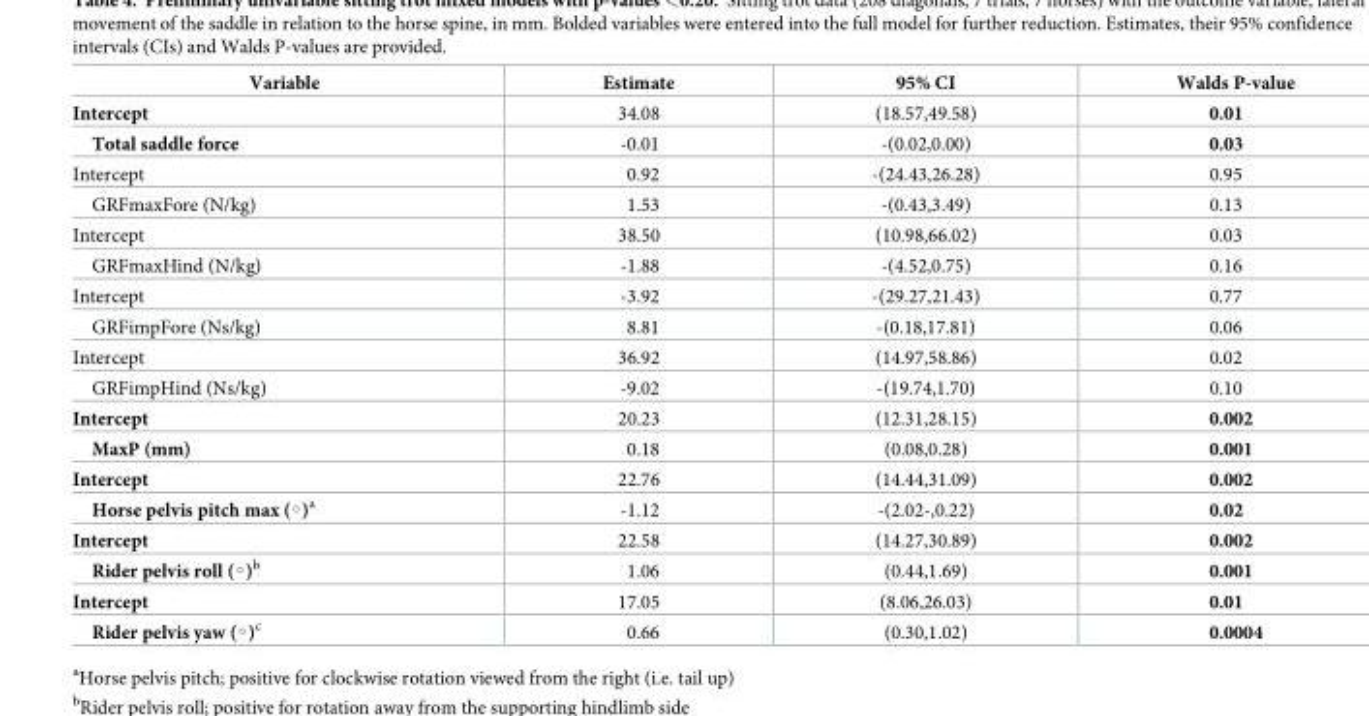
<table><thead><tr><td>Variable</td><td>Estimate</td><td>95% CI</td><td>Walds P-value</td></tr></thead><tbody><tr><td>Intercept</td><td>34.08</td><td>(18.57,49.58)</td><td>0.01</td></tr><tr><td>Total saddle force</td><td>-0.01</td><td>-(0.02,0.00)</td><td>0.03</td></tr><tr><td>Intercept</td><td>0.92</td><td>-(24.43,26.28)</td><td>0.95</td></tr><tr><td>GRFmaxFore (N/kg)</td><td>1.53</td><td>-(0.43,3.49)</td><td>0.13</td></tr><tr><td>Intercept</td><td>38.50</td><td>(10.98,66.02)</td><td>0.03</td></tr><tr><td>GRFmaxHind (N/kg)</td><td>-1.88</td><td>-(4.52,0.75)</td><td>0.16</td></tr><tr><td>Intercept</td><td>-3.92</td><td>-(29.27,21.43)</td><td>0.77</td></tr><tr><td>GRFimpFore (Ns/kg)</td><td>8.81</td><td>-(0.18,17.81)</td><td>0.06</td></tr><tr><td>Intercept</td><td>36.92</td><td>(14.97,58.86)</td><td>0.02</td></tr><tr><td>GRFimpHind (Ns/kg)</td><td>-9.02</td><td>-(19.74,1.70)</td><td>0.10</td></tr><tr><td>Intercept</td><td>20.23</td><td>(12.31,28.15)</td><td>0.002</td></tr><tr><td>MaxP (mm)</td><td>0.18</td><td>(0.08,0.28)</td><td>0.001</td></tr><tr><td>Intercept</td><td>22.76</td><td>(14.44,31.09)</td><td>0.002</td></tr><tr><td>Horse pelvis pitch max (◦)<sup>a</sup></td><td>-1.12</td><td>-(2.02-,0.22)</td><td>0.02</td></tr><tr><td>Intercept</td><td>22.58</td><td>(14.27,30.89)</td><td>0.002</td></tr><tr><td>Rider pelvis roll (◦)<sup>b</sup></td><td>1.06</td><td>(0.44,1.69)</td><td>0.001</td></tr><tr><td>Intercept</td><td>17.05</td><td>(8.06,26.03)</td><td>0.01</td></tr><tr><td>Rider pelvis yaw (◦)<sup>c</sup></td><td>0.66</td><td>(0.30,1.02)</td><td>0.0004</td></tr></tbody></table>